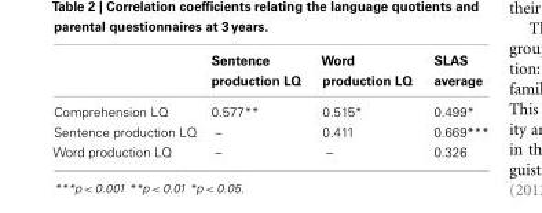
<table><thead><tr><td></td><td>Sentence production LQ</td><td>Word production LQ</td><td>SLAS average</td></tr></thead><tbody><tr><td>Comprehension LQ</td><td>0.577**</td><td>0.515*</td><td>0.499*</td></tr><tr><td>Sentence production LQ</td><td>–</td><td>0.411</td><td>0.669***</td></tr><tr><td>Word production LQ</td><td>–</td><td>–</td><td>0.326</td></tr></tbody></table>